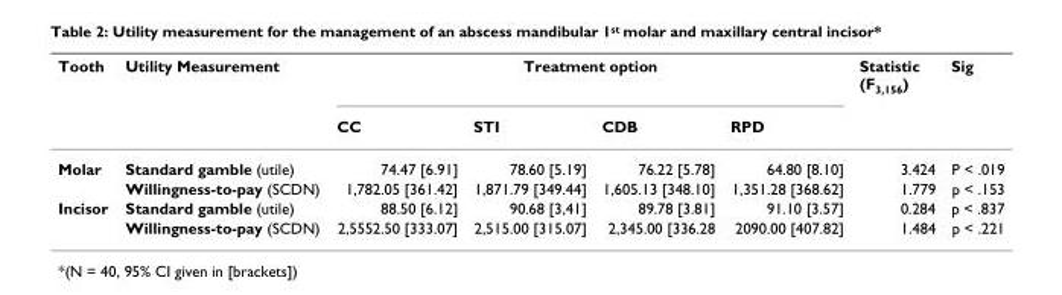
<table><thead><tr><td rowspan="2">Tooth</td><td rowspan="2">Utility Measurement</td><td colspan="4">Treatment option</td><td rowspan="2">Statistic (F<sub>3,156</sub>)</td><td rowspan="2">Sig</td></tr><tr><td>CC</td><td>STI</td><td>CDB</td><td>RPD</td></tr></thead><tbody><tr><td rowspan="2">Molar</td><td>Standard gamble (utile)</td><td>74.47 [6.91]</td><td>78.60 [5.19]</td><td>76.22 [5.78]</td><td>64.80 [8.10]</td><td>3.424</td><td>P &lt; .019</td></tr><tr><td>Willingness-to-pay (SCDN)</td><td>1,782.05 [361.42]</td><td>1,871.79 [349.44]</td><td>1,605.13 [348.10]</td><td>1,351.28 [368.62]</td><td>1.779</td><td>p &lt; .153</td></tr><tr><td rowspan="2">Incisor</td><td>Standard gamble (utile)</td><td>88.50 [6.12]</td><td>90.68 [3,41]</td><td>89.78 [3.81]</td><td>91.10 [3.57]</td><td>0.284</td><td>p &lt; .837</td></tr><tr><td>Willingness-to-pay (SCDN)</td><td>2,5552.50 [333.07]</td><td>2,515.00 [315.07]</td><td>2,345.00 [336.28</td><td>2090.00 [407.82]</td><td>1.484</td><td>p &lt; .221</td></tr></tbody></table>